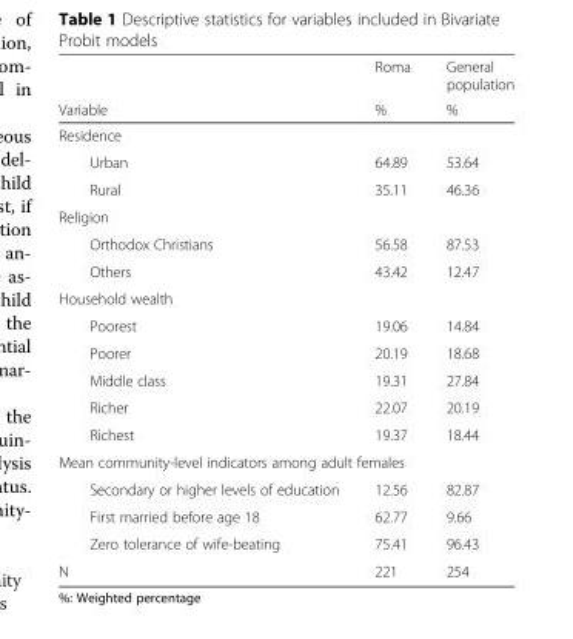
<table><thead><tr><td rowspan="2">Variable</td><td rowspan="2">Roma %</td><td rowspan="2">General population %</td></tr><tr></tr></thead><tbody><tr><td colspan="3">Residence</td></tr><tr><td>Urban</td><td>64.89</td><td>53.64</td></tr><tr><td>Rural</td><td>35.11</td><td>46.36</td></tr><tr><td colspan="3">Religion</td></tr><tr><td>Orthodox Christians</td><td>56.58</td><td>87.53</td></tr><tr><td>Others</td><td>43.42</td><td>12.47</td></tr><tr><td colspan="3">Household wealth</td></tr><tr><td>Poorest</td><td>19.06</td><td>14.84</td></tr><tr><td>Poorer</td><td>20.19</td><td>18.68</td></tr><tr><td>Middle class</td><td>19.31</td><td>27.84</td></tr><tr><td>Richer</td><td>22.07</td><td>20.19</td></tr><tr><td>Richest</td><td>19.37</td><td>18.44</td></tr><tr><td colspan="3">Mean community-level indicators among adult females</td></tr><tr><td>Secondary or higher levels of education</td><td>12.56</td><td>82.87</td></tr><tr><td>First married before age 18</td><td>62.77</td><td>9.66</td></tr><tr><td>Zero tolerance of wife-beating</td><td>75.41</td><td>96.43</td></tr><tr><td>N</td><td>221</td><td>254</td></tr></tbody></table>